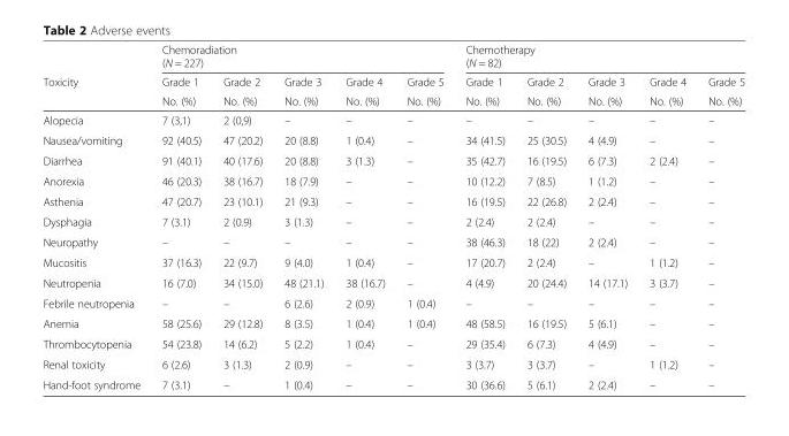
<table><thead><tr><td rowspan="3">Toxicity</td><td colspan="5">Chemoradiation (N = 227)</td><td colspan="5">Chemotherapy (N = 82)</td></tr><tr><td rowspan="2">Grade 1 No. (%)</td><td rowspan="2">Grade 2 No. (%)</td><td rowspan="2">Grade 3 No. (%)</td><td rowspan="2">Grade 4 No. (%)</td><td rowspan="2">Grade 5 No. (%)</td><td rowspan="2">Grade 1 No. (%)</td><td rowspan="2">Grade 2 No. (%)</td><td rowspan="2">Grade 3 No. (%)</td><td rowspan="2">Grade 4 No. (%)</td><td rowspan="2">Grade 5 No. (%)</td></tr><tr></tr></thead><tbody><tr><td>Alopecia</td><td>7 (3,1)</td><td>2 (0,9)</td><td>–</td><td>–</td><td>–</td><td>–</td><td>–</td><td>–</td><td>–</td><td>–</td></tr><tr><td>Nausea/vomiting</td><td>92 (40.5)</td><td>47 (20.2)</td><td>20 (8.8)</td><td>1 (0.4)</td><td>–</td><td>34 (41.5)</td><td>25 (30.5)</td><td>4 (4.9)</td><td>–</td><td>–</td></tr><tr><td>Diarrhea</td><td>91 (40.1)</td><td>40 (17.6)</td><td>20 (8.8)</td><td>3 (1.3)</td><td>–</td><td>35 (42.7)</td><td>16 (19.5)</td><td>6 (7.3)</td><td>2 (2.4)</td><td>–</td></tr><tr><td>Anorexia</td><td>46 (20.3)</td><td>38 (16.7)</td><td>18 (7.9)</td><td>–</td><td>–</td><td>10 (12.2)</td><td>7 (8.5)</td><td>1 (1.2)</td><td>–</td><td>–</td></tr><tr><td>Asthenia</td><td>47 (20.7)</td><td>23 (10.1)</td><td>21 (9.3)</td><td>–</td><td>–</td><td>16 (19.5)</td><td>22 (26.8)</td><td>2 (2.4)</td><td>–</td><td>–</td></tr><tr><td>Dysphagia</td><td>7 (3.1)</td><td>2 (0.9)</td><td>3 (1.3)</td><td>–</td><td>–</td><td>2 (2.4)</td><td>2 (2.4)</td><td>–</td><td>–</td><td>–</td></tr><tr><td>Neuropathy</td><td>–</td><td>–</td><td>–</td><td>–</td><td>–</td><td>38 (46.3)</td><td>18 (22)</td><td>2 (2.4)</td><td>–</td><td>–</td></tr><tr><td>Mucositis</td><td>37 (16.3)</td><td>22 (9.7)</td><td>9 (4.0)</td><td>1 (0.4)</td><td>–</td><td>17 (20.7)</td><td>2 (2.4)</td><td>–</td><td>1 (1.2)</td><td>–</td></tr><tr><td>Neutropenia</td><td>16 (7.0)</td><td>34 (15.0)</td><td>48 (21.1)</td><td>38 (16.7)</td><td>–</td><td>4 (4.9)</td><td>20 (24.4)</td><td>14 (17.1)</td><td>3 (3.7)</td><td>–</td></tr><tr><td>Febrile neutropenia</td><td>–</td><td>–</td><td>6 (2.6)</td><td>2 (0.9)</td><td>1 (0.4)</td><td>–</td><td>–</td><td>–</td><td>–</td><td>–</td></tr><tr><td>Anemia</td><td>58 (25.6)</td><td>29 (12.8)</td><td>8 (3.5)</td><td>1 (0.4)</td><td>1 (0.4)</td><td>48 (58.5)</td><td>16 (19.5)</td><td>5 (6.1)</td><td>–</td><td>–</td></tr><tr><td>Thrombocytopenia</td><td>54 (23.8)</td><td>14 (6.2)</td><td>5 (2.2)</td><td>1 (0.4)</td><td>–</td><td>29 (35.4)</td><td>6 (7.3)</td><td>4 (4.9)</td><td>–</td><td>–</td></tr><tr><td>Renal toxicity</td><td>6 (2.6)</td><td>3 (1.3)</td><td>2 (0.9)</td><td>–</td><td>–</td><td>3 (3.7)</td><td>3 (3.7)</td><td>–</td><td>1 (1.2)</td><td>–</td></tr><tr><td>Hand-foot syndrome</td><td>7 (3.1)</td><td>–</td><td>1 (0.4)</td><td>–</td><td>–</td><td>30 (36.6)</td><td>5 (6.1)</td><td>2 (2.4)</td><td>–</td><td>–</td></tr></tbody></table>